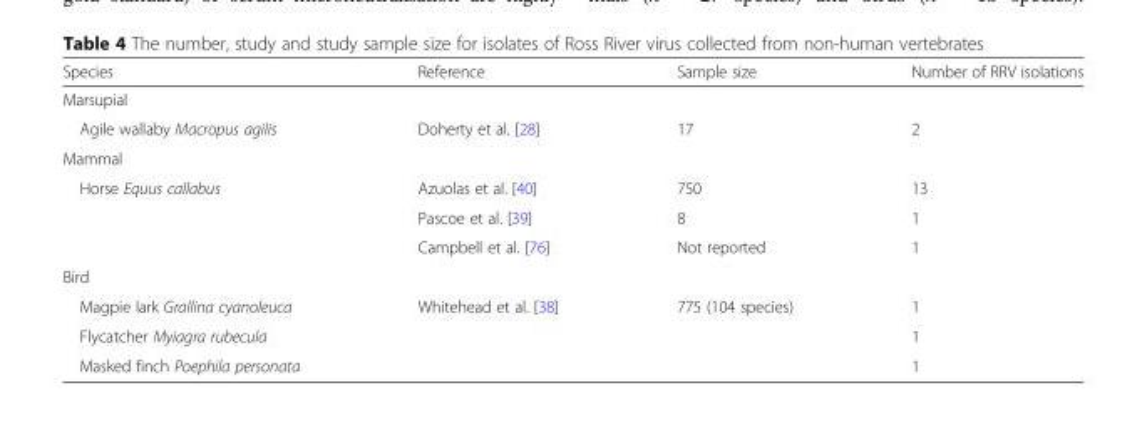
<table><thead><tr><td>Species</td><td>Reference</td><td>Sample size</td><td>Number of RRV isolations</td></tr></thead><tbody><tr><td colspan="4">Marsupial</td></tr><tr><td>Agile wallaby Macropus agilis</td><td>Doherty et al. [28]</td><td>17</td><td>2</td></tr><tr><td colspan="4">Mammal</td></tr><tr><td rowspan="3">Horse Equus callabus</td><td>Azuolas et al. [40]</td><td>750</td><td>13</td></tr><tr><td>Pascoe et al. [39]</td><td>8</td><td>1</td></tr><tr><td>Campbell et al. [76]</td><td>Not reported</td><td>1</td></tr><tr><td colspan="4">Bird</td></tr><tr><td>Magpie lark Grallina cyanoleuca</td><td rowspan="3">Whitehead et al. [38]</td><td rowspan="3">775 (104 species)</td><td>1</td></tr><tr><td>Flycatcher Myiagra rubecula</td><td>1</td></tr><tr><td>Masked finch Poephila personata</td><td>1</td></tr></tbody></table>